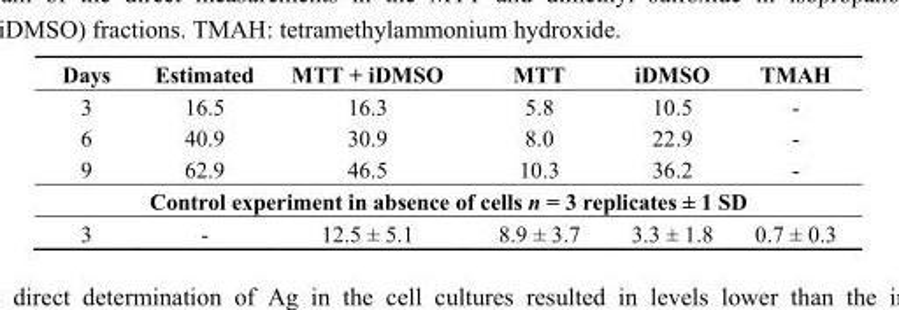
<table><thead><tr><td>Days</td><td>Estimated</td><td>MTT + iDMSO</td><td>MTT</td><td>iDMSO</td><td>TMAH</td></tr></thead><tbody><tr><td>3</td><td>16.5</td><td>16.3</td><td>5.8</td><td>10.5</td><td>-</td></tr><tr><td>6</td><td>40.9</td><td>30.9</td><td>8.0</td><td>22.9</td><td>-</td></tr><tr><td>9</td><td>62.9</td><td>46.5</td><td>10.3</td><td>36.2</td><td>-</td></tr><tr><td colspan="6">Control experiment in absence of cells n = 3 replicates ± 1 SD</td></tr><tr><td>3</td><td>-</td><td>12.5 ± 5.1</td><td>8.9 ± 3.7</td><td>3.3 ± 1.8</td><td>0.7 ± 0.3</td></tr></tbody></table>